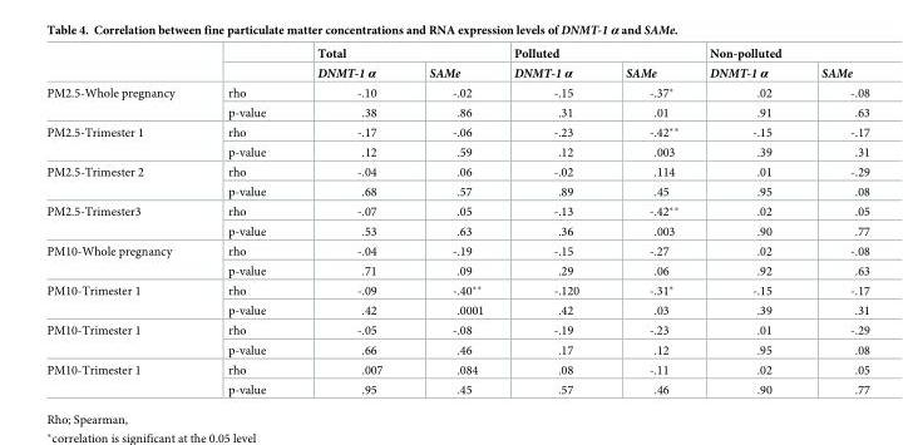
<table><thead><tr><td rowspan="2"></td><td rowspan="2"></td><td colspan="2">Total</td><td colspan="2">Polluted</td><td colspan="2">Non-polluted</td></tr><tr><td>DNMT-1 α</td><td>SAMe</td><td>DNMT-1 α</td><td>SAMe</td><td>DNMT-1 α</td><td>SAMe</td></tr></thead><tbody><tr><td rowspan="2">PM2.5-Whole pregnancy</td><td>rho</td><td>-.10</td><td>-.02</td><td>-.15</td><td>-.37*</td><td>.02</td><td>-.08</td></tr><tr><td>p-value</td><td>.38</td><td>.86</td><td>.31</td><td>.01</td><td>.91</td><td>.63</td></tr><tr><td rowspan="2">PM2.5-Trimester 1</td><td>rho</td><td>-.17</td><td>-.06</td><td>-.23</td><td>-.42**</td><td>-.15</td><td>-.17</td></tr><tr><td>p-value</td><td>.12</td><td>.59</td><td>.12</td><td>.003</td><td>.39</td><td>.31</td></tr><tr><td rowspan="2">PM2.5-Trimester 2</td><td>rho</td><td>-.04</td><td>.06</td><td>-.02</td><td>.114</td><td>.01</td><td>-.29</td></tr><tr><td>p-value</td><td>.68</td><td>.57</td><td>.89</td><td>.45</td><td>.95</td><td>.08</td></tr><tr><td rowspan="2">PM2.5-Trimester3</td><td>rho</td><td>-.07</td><td>.05</td><td>-.13</td><td>-.42**</td><td>.02</td><td>.05</td></tr><tr><td>p-value</td><td>.53</td><td>.63</td><td>.36</td><td>.003</td><td>.90</td><td>.77</td></tr><tr><td rowspan="2">PM10-Whole pregnancy</td><td>rho</td><td>-.04</td><td>-.19</td><td>-.15</td><td>-.27</td><td>.02</td><td>-.08</td></tr><tr><td>p-value</td><td>.71</td><td>.09</td><td>.29</td><td>.06</td><td>.92</td><td>.63</td></tr><tr><td rowspan="2">PM10-Trimester 1</td><td>rho</td><td>-.09</td><td>-.40**</td><td>-.120</td><td>-.31*</td><td>-.15</td><td>-.17</td></tr><tr><td>p-value</td><td>.42</td><td>.0001</td><td>.42</td><td>.03</td><td>.39</td><td>.31</td></tr><tr><td rowspan="2">PM10-Trimester 1</td><td>rho</td><td>-.05</td><td>-.08</td><td>-.19</td><td>-.23</td><td>.01</td><td>-.29</td></tr><tr><td>p-value</td><td>.66</td><td>.46</td><td>.17</td><td>.12</td><td>.95</td><td>.08</td></tr><tr><td rowspan="2">PM10-Trimester 1</td><td>rho</td><td>.007</td><td>.084</td><td>.08</td><td>-.11</td><td>.02</td><td>.05</td></tr><tr><td>p-value</td><td>.95</td><td>.45</td><td>.57</td><td>.46</td><td>.90</td><td>.77</td></tr></tbody></table>